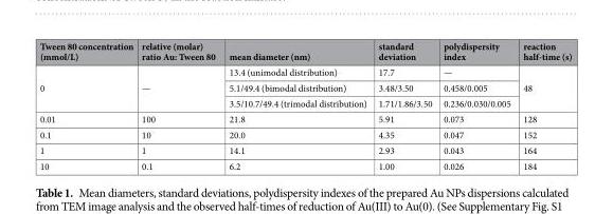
<table><thead><tr><td>Tween 80 concentration (mmol/L)</td><td>relative (molar) ratio Au: Tween 80</td><td>mean diameter (nm)</td><td>standard deviation</td><td>polydispersity index</td><td>reaction half-time (s)</td></tr></thead><tbody><tr><td rowspan="3">0</td><td rowspan="3">—</td><td>13.4 (unimodal distribution)</td><td>17.7</td><td>—</td><td rowspan="3">48</td></tr><tr><td>5.1/49.4 (bimodal distribution)</td><td>3.48/3.50</td><td>0.458/0.005</td></tr><tr><td>3.5/10.7/49.4 (trimodal distribution)</td><td>1.71/1.86/3.50</td><td>0.236/0.030/0.005</td></tr><tr><td>0.01</td><td>100</td><td>21.8</td><td>5.91</td><td>0.073</td><td>128</td></tr><tr><td>0.1</td><td>10</td><td>20.0</td><td>4.35</td><td>0.047</td><td>152</td></tr><tr><td>1</td><td>1</td><td>14.1</td><td>2.93</td><td>0.043</td><td>164</td></tr><tr><td>10</td><td>0.1</td><td>6.2</td><td>1.00</td><td>0.026</td><td>184</td></tr></tbody></table>